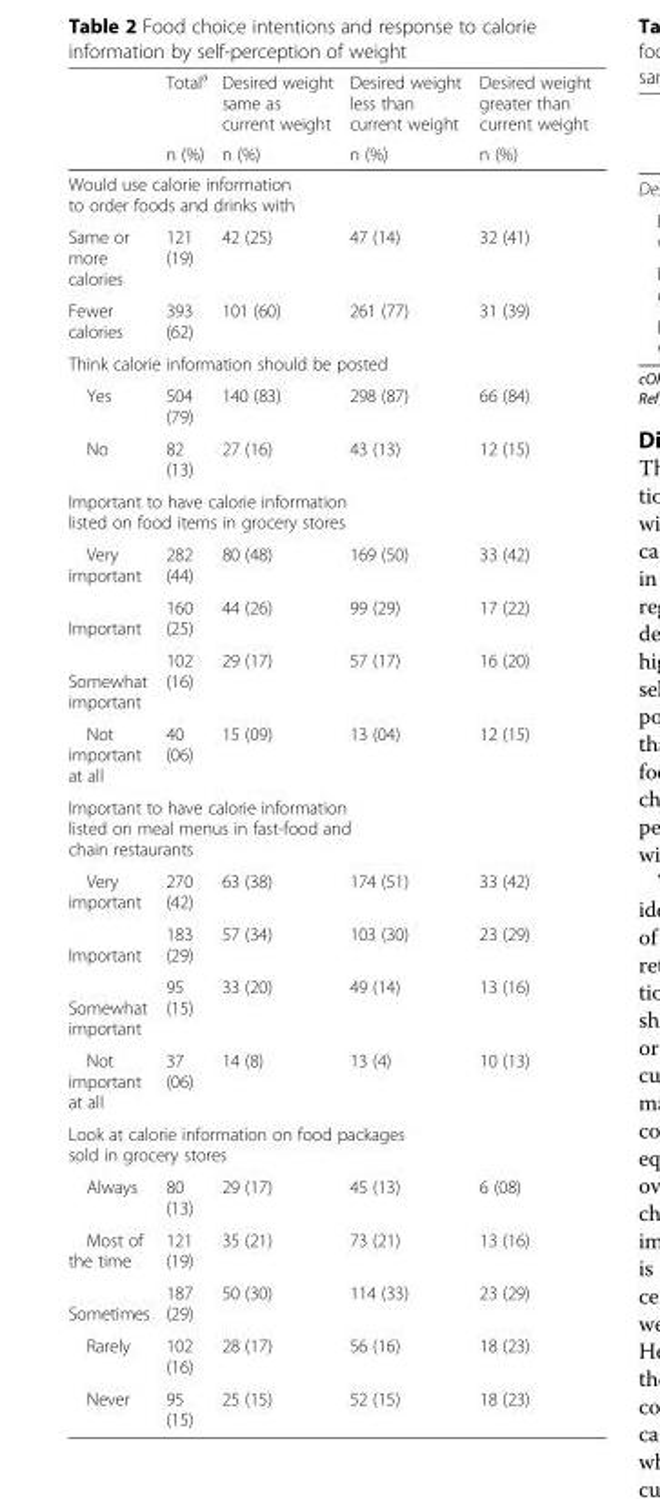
<table><thead><tr><td rowspan="2"></td><td rowspan="2">Total<sup>a</sup> n (%)</td><td rowspan="2">Desired weight same as current weight n (%)</td><td rowspan="2">Desired weight less than current weight n (%)</td><td rowspan="2">Desired weight greater than current weight n (%)</td></tr><tr></tr></thead><tbody><tr><td colspan="5">Would use calorie information to order foods and drinks with</td></tr><tr><td>Same or more calories</td><td>121 (19)</td><td>42 (25)</td><td>47 (14)</td><td>32 (41)</td></tr><tr><td>Fewer calories</td><td>393 (62)</td><td>101 (60)</td><td>261 (77)</td><td>31 (39)</td></tr><tr><td colspan="5">Think calorie information should be posted</td></tr><tr><td>Yes</td><td>504 (79)</td><td>140 (83)</td><td>298 (87)</td><td>66 (84)</td></tr><tr><td>No</td><td>82 (13)</td><td>27 (16)</td><td>43 (13)</td><td>12 (15)</td></tr><tr><td colspan="5">Important to have calorie information listed on food items in grocery stores</td></tr><tr><td>Very important</td><td>282 (44)</td><td>80 (48)</td><td>169 (50)</td><td>33 (42)</td></tr><tr><td>Important</td><td>160 (25)</td><td>44 (26)</td><td>99 (29)</td><td>17 (22)</td></tr><tr><td>Somewhat important</td><td>102 (16)</td><td>29 (17)</td><td>57 (17)</td><td>16 (20)</td></tr><tr><td>Not important at all</td><td>40 (06)</td><td>15 (09)</td><td>13 (04)</td><td>12 (15)</td></tr><tr><td colspan="5">Important to have calorie information listed on meal menus in fast-food and chain restaurants</td></tr><tr><td>Very important</td><td>270 (42)</td><td>63 (38)</td><td>174 (51)</td><td>33 (42)</td></tr><tr><td>Important</td><td>183 (29)</td><td>57 (34)</td><td>103 (30)</td><td>23 (29)</td></tr><tr><td>Somewhat important</td><td>95 (15)</td><td>33 (20)</td><td>49 (14)</td><td>13 (16)</td></tr><tr><td>Not important at all</td><td>37 (06)</td><td>14 (8)</td><td>13 (4)</td><td>10 (13)</td></tr><tr><td colspan="5">Look at calorie information on food packages sold in grocery stores</td></tr><tr><td>Always</td><td>80 (13)</td><td>29 (17)</td><td>45 (13)</td><td>6 (08)</td></tr><tr><td>Most of the time</td><td>121 (19)</td><td>35 (21)</td><td>73 (21)</td><td>13 (16)</td></tr><tr><td>Sometimes</td><td>187 (29)</td><td>50 (30)</td><td>114 (33)</td><td>23 (29)</td></tr><tr><td>Rarely</td><td>102 (16)</td><td>28 (17)</td><td>56 (16)</td><td>18 (23)</td></tr><tr><td>Never</td><td>95 (15)</td><td>25 (15)</td><td>52 (15)</td><td>18 (23)</td></tr></tbody></table>